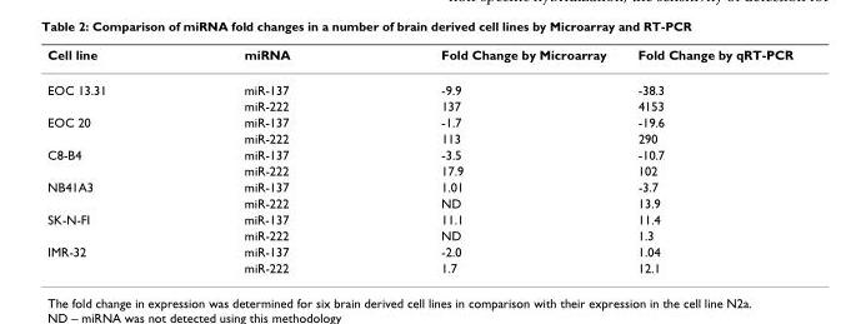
<table><thead><tr><td>Cell line</td><td>miRNA</td><td>Fold Change by Microarray</td><td>Fold Change by qRT-PCR</td></tr></thead><tbody><tr><td rowspan="2">EOC 13.31</td><td>miR-137</td><td>-9.9</td><td>-38.3</td></tr><tr><td>miR-222</td><td>137</td><td>4153</td></tr><tr><td rowspan="2">EOC 20</td><td>miR-137</td><td>-1.7</td><td>-19.6</td></tr><tr><td>miR-222</td><td>113</td><td>290</td></tr><tr><td rowspan="2">C8-B4</td><td>miR-137</td><td>-3.5</td><td>-10.7</td></tr><tr><td>miR-222</td><td>17.9</td><td>102</td></tr><tr><td rowspan="2">NB41A3</td><td>miR-137</td><td>1.01</td><td>-3.7</td></tr><tr><td>miR-222</td><td>ND</td><td>13.9</td></tr><tr><td rowspan="2">SK-N-FI</td><td>miR-137</td><td>11.1</td><td>11.4</td></tr><tr><td>miR-222</td><td>ND</td><td>1.3</td></tr><tr><td rowspan="2">IMR-32</td><td>miR-137</td><td>-2.0</td><td>1.04</td></tr><tr><td>miR-222</td><td>1.7</td><td>12.1</td></tr></tbody></table>